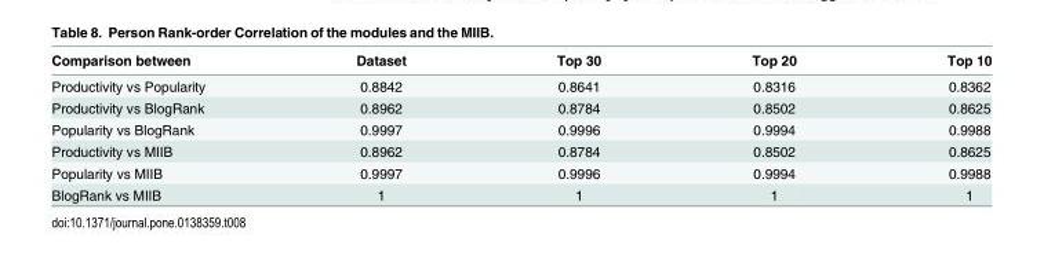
<table><thead><tr><td>Comparison between</td><td>Dataset</td><td>Top 30</td><td>Top 20</td><td>Top 10</td></tr></thead><tbody><tr><td>Productivity vs Popularity</td><td>0.8842</td><td>0.8641</td><td>0.8316</td><td>0.8362</td></tr><tr><td>Productivity vs BlogRank</td><td>0.8962</td><td>0.8784</td><td>0.8502</td><td>0.8625</td></tr><tr><td>Popularity vs BlogRank</td><td>0.9997</td><td>0.9996</td><td>0.9994</td><td>0.9988</td></tr><tr><td>Productivity vs MIIB</td><td>0.8962</td><td>0.8784</td><td>0.8502</td><td>0.8625</td></tr><tr><td>Popularity vs MIIB</td><td>0.9997</td><td>0.9996</td><td>0.9994</td><td>0.9988</td></tr><tr><td>BlogRank vs MIIB</td><td>1</td><td>1</td><td>1</td><td>1</td></tr></tbody></table>